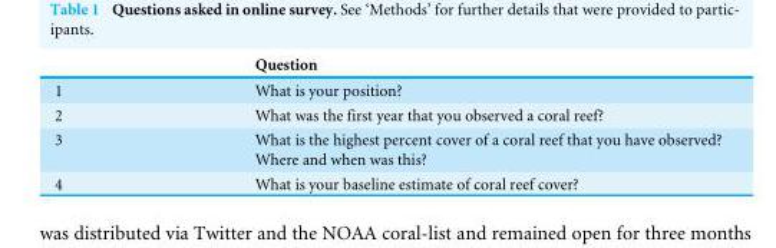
<table><thead><tr><td></td><td>Question</td></tr></thead><tbody><tr><td>1</td><td>What is your position?</td></tr><tr><td>2</td><td>What was the first year that you observed a coral reef?</td></tr><tr><td>3</td><td>What is the highest percent cover of a coral reef that you have observed? Where and when was this?</td></tr><tr><td>4</td><td>What is your baseline estimate of coral reef cover?</td></tr></tbody></table>